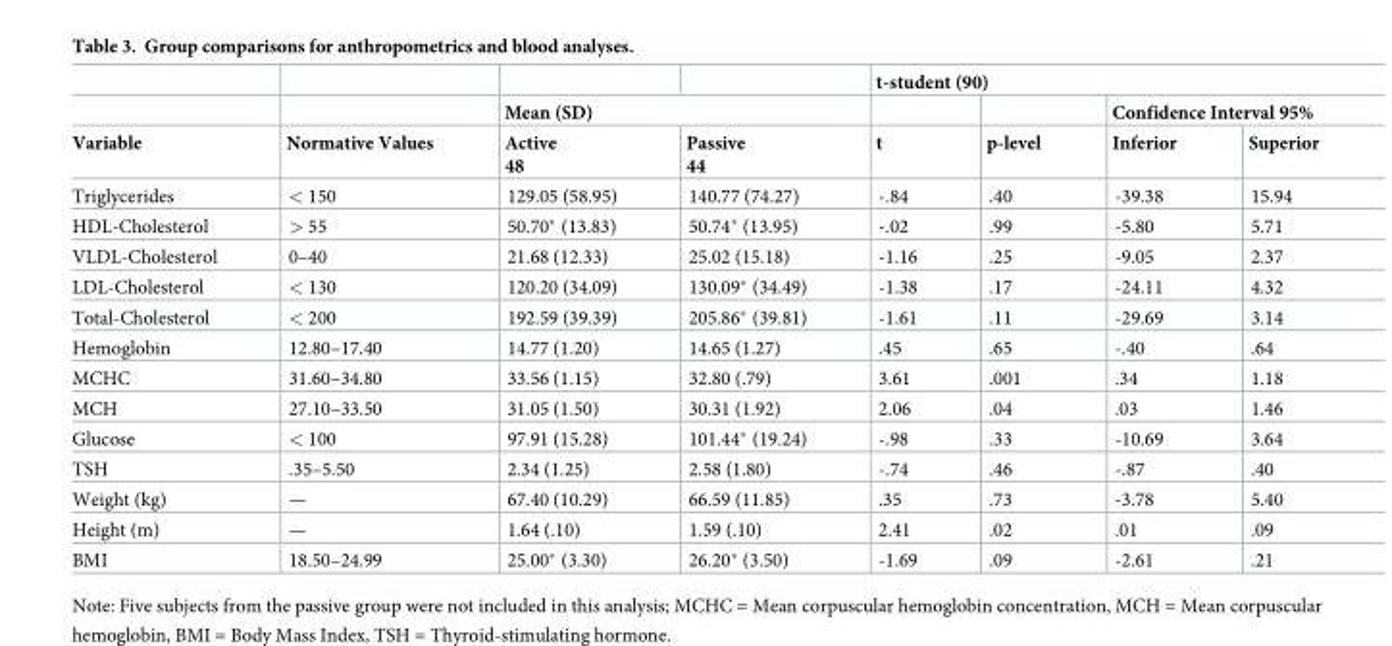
<table><thead><tr><td rowspan="3">Variable</td><td rowspan="3">Normative Values</td><td></td><td></td><td colspan="4">t-student (90)</td></tr><tr><td colspan="2">Mean (SD)</td><td rowspan="2">t</td><td rowspan="2">p-level</td><td colspan="2">Confidence Interval 95%</td></tr><tr><td>Active 48</td><td>Passive 44</td><td>Inferior</td><td>Superior</td></tr></thead><tbody><tr><td>Triglycerides</td><td>&lt; 150</td><td>129.05 (58.95)</td><td>140.77 (74.27)</td><td>-.84</td><td>.40</td><td>-39.38</td><td>15.94</td></tr><tr><td>HDL-Cholesterol</td><td>&gt; 55</td><td>50.70* (13.83)</td><td>50.74* (13.95)</td><td>-.02</td><td>.99</td><td>-5.80</td><td>5.71</td></tr><tr><td>VLDL-Cholesterol</td><td>0–40</td><td>21.68 (12.33)</td><td>25.02 (15.18)</td><td>-1.16</td><td>.25</td><td>-9.05</td><td>2.37</td></tr><tr><td>LDL-Cholesterol</td><td>&lt; 130</td><td>120.20 (34.09)</td><td>130.09* (34.49)</td><td>-1.38</td><td>.17</td><td>-24.11</td><td>4.32</td></tr><tr><td>Total-Cholesterol</td><td>&lt; 200</td><td>192.59 (39.39)</td><td>205.86* (39.81)</td><td>-1.61</td><td>.11</td><td>-29.69</td><td>3.14</td></tr><tr><td>Hemoglobin</td><td>12.80–17.40</td><td>14.77 (1.20)</td><td>14.65 (1.27)</td><td>.45</td><td>.65</td><td>-.40</td><td>.64</td></tr><tr><td>MCHC</td><td>31.60–34.80</td><td>33.56 (1.15)</td><td>32.80 (.79)</td><td>3.61</td><td>.001</td><td>.34</td><td>1.18</td></tr><tr><td>MCH</td><td>27.10–33.50</td><td>31.05 (1.50)</td><td>30.31 (1.92)</td><td>2.06</td><td>.04</td><td>.03</td><td>1.46</td></tr><tr><td>Glucose</td><td>&lt; 100</td><td>97.91 (15.28)</td><td>101.44* (19.24)</td><td>-.98</td><td>.33</td><td>-10.69</td><td>3.64</td></tr><tr><td>TSH</td><td>.35–5.50</td><td>2.34 (1.25)</td><td>2.58 (1.80)</td><td>-.74</td><td>.46</td><td>-.87</td><td>.40</td></tr><tr><td>Weight (kg)</td><td>—</td><td>67.40 (10.29)</td><td>66.59 (11.85)</td><td>.35</td><td>.73</td><td>-3.78</td><td>5.40</td></tr><tr><td>Height (m)</td><td>—</td><td>1.64 (.10)</td><td>1.59 (.10)</td><td>2.41</td><td>.02</td><td>.01</td><td>.09</td></tr><tr><td>BMI</td><td>18.50–24.99</td><td>25.00* (3.30)</td><td>26.20* (3.50)</td><td>-1.69</td><td>.09</td><td>-2.61</td><td>.21</td></tr></tbody></table>